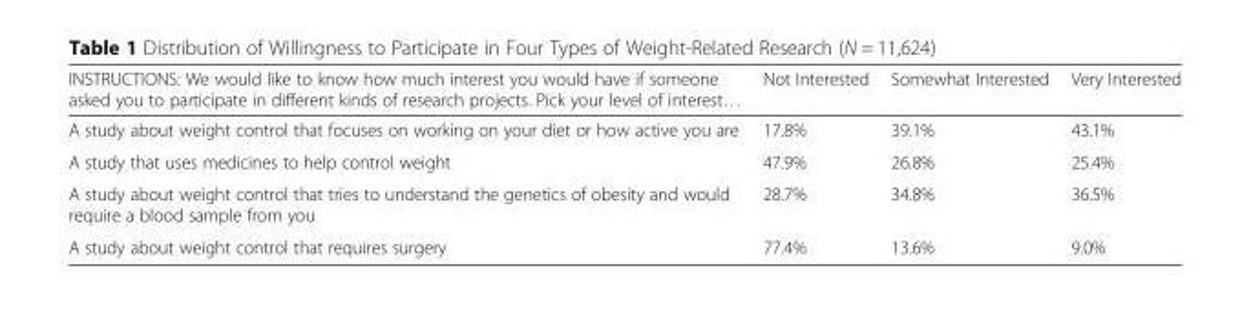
<table><thead><tr><td>INSTRUCTIONS: We would like to know how much interest you would have if someone asked you to participate in different kinds of research projects. Pick your level of interest…</td><td>Not Interested</td><td>Somewhat Interested</td><td>Very Interested</td></tr></thead><tbody><tr><td>A study about weight control that focuses on working on your diet or how active you are</td><td>17.8%</td><td>39.1%</td><td>43.1%</td></tr><tr><td>A study that uses medicines to help control weight</td><td>47.9%</td><td>26.8%</td><td>25.4%</td></tr><tr><td>A study about weight control that tries to understand the genetics of obesity and would require a blood sample from you</td><td>28.7%</td><td>34.8%</td><td>36.5%</td></tr><tr><td>A study about weight control that requires surgery</td><td>77.4%</td><td>13.6%</td><td>9.0%</td></tr></tbody></table>